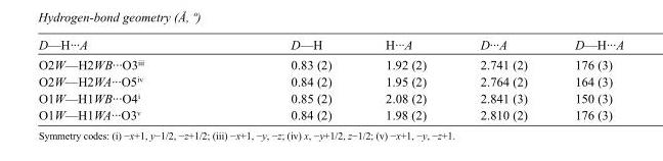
<table><tbody><tr><td>D—H···A</td><td>D—H</td><td>H···A</td><td>D···A</td><td>D—H···A</td></tr><tr><td>O2W—H2WB···O3<sup>iii</sup></td><td>0.83 (2)</td><td>1.92 (2)</td><td>2.741 (2)</td><td>176 (3)</td></tr><tr><td>O2W—H2WA···O5<sup>iv</sup></td><td>0.84 (2)</td><td>1.95 (2)</td><td>2.764 (2)</td><td>164 (3)</td></tr><tr><td>O1W—H1WB···O4<sup>i</sup></td><td>0.85 (2)</td><td>2.08 (2)</td><td>2.841 (3)</td><td>150 (3)</td></tr><tr><td>O1W—H1WA···O3<sup>v</sup></td><td>0.84 (2)</td><td>1.98 (2)</td><td>2.810 (2)</td><td>176 (3)</td></tr></tbody></table>